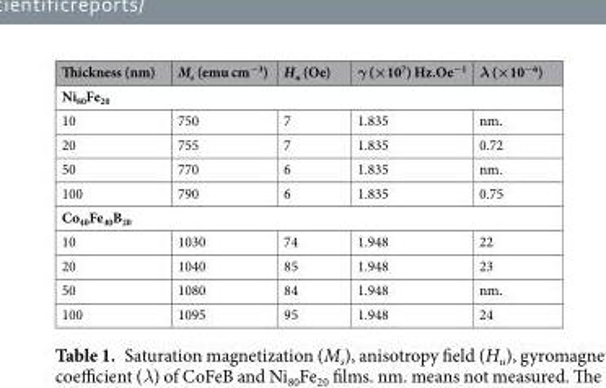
<table><thead><tr><td>Thickness (nm)</td><td>M<sub>s</sub> (emu cm<sup>−3</sup>)</td><td>H<sub>u</sub> (Oe)</td><td>γ (×10<sup>7</sup>) Hz.Oe<sup>−1</sup></td><td>λ (×10<sup>−6</sup>)</td></tr></thead><tbody><tr><td colspan="5">Ni<sub>80</sub>Fe<sub>20</sub></td></tr><tr><td>10</td><td>750</td><td>7</td><td>1.835</td><td>nm.</td></tr><tr><td>20</td><td>755</td><td>7</td><td>1.835</td><td>0.72</td></tr><tr><td>50</td><td>770</td><td>6</td><td>1.835</td><td>nm.</td></tr><tr><td>100</td><td>790</td><td>6</td><td>1.835</td><td>0.75</td></tr><tr><td colspan="5">Co<sub>40</sub>Fe<sub>40</sub>B<sub>20</sub></td></tr><tr><td>10</td><td>1030</td><td>74</td><td>1.948</td><td>22</td></tr><tr><td>20</td><td>1040</td><td>85</td><td>1.948</td><td>23</td></tr><tr><td>50</td><td>1080</td><td>84</td><td>1.948</td><td>nm.</td></tr><tr><td>100</td><td>1095</td><td>95</td><td>1.948</td><td>24</td></tr></tbody></table>